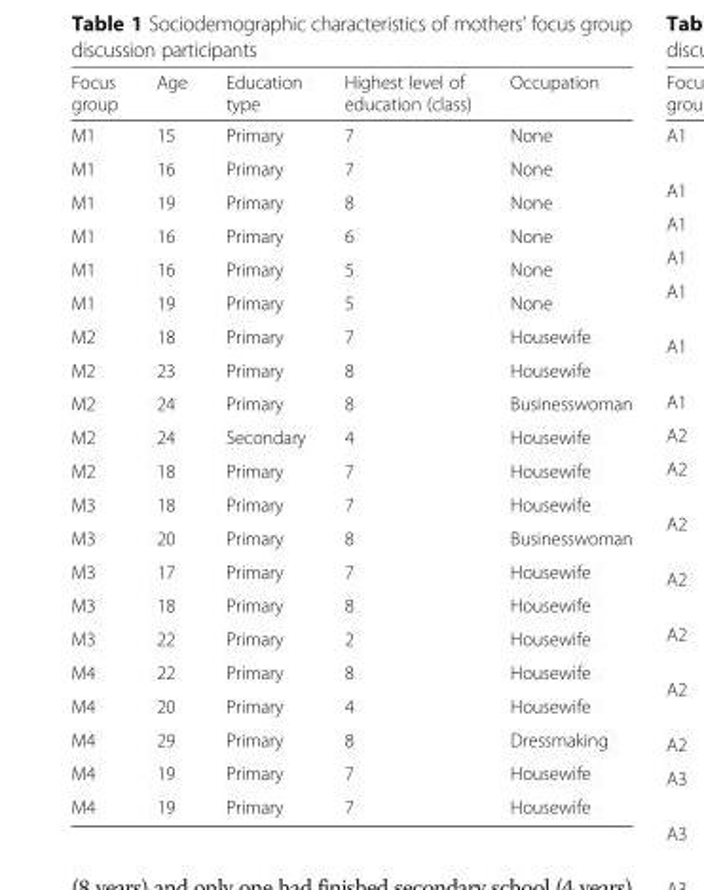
<table><thead><tr><td>Focus group</td><td>Age</td><td>Education type</td><td>Highest level of education (class)</td><td>Occupation</td></tr></thead><tbody><tr><td>M1</td><td>15</td><td>Primary</td><td>7</td><td>None</td></tr><tr><td>M1</td><td>16</td><td>Primary</td><td>7</td><td>None</td></tr><tr><td>M1</td><td>19</td><td>Primary</td><td>8</td><td>None</td></tr><tr><td>M1</td><td>16</td><td>Primary</td><td>6</td><td>None</td></tr><tr><td>M1</td><td>16</td><td>Primary</td><td>5</td><td>None</td></tr><tr><td>M1</td><td>19</td><td>Primary</td><td>5</td><td>None</td></tr><tr><td>M2</td><td>18</td><td>Primary</td><td>7</td><td>Housewife</td></tr><tr><td>M2</td><td>23</td><td>Primary</td><td>8</td><td>Housewife</td></tr><tr><td>M2</td><td>24</td><td>Primary</td><td>8</td><td>Businesswoman</td></tr><tr><td>M2</td><td>24</td><td>Secondary</td><td>4</td><td>Housewife</td></tr><tr><td>M2</td><td>18</td><td>Primary</td><td>7</td><td>Housewife</td></tr><tr><td>M3</td><td>18</td><td>Primary</td><td>7</td><td>Housewife</td></tr><tr><td>M3</td><td>20</td><td>Primary</td><td>8</td><td>Businesswoman</td></tr><tr><td>M3</td><td>17</td><td>Primary</td><td>7</td><td>Housewife</td></tr><tr><td>M3</td><td>18</td><td>Primary</td><td>8</td><td>Housewife</td></tr><tr><td>M3</td><td>22</td><td>Primary</td><td>2</td><td>Housewife</td></tr><tr><td>M4</td><td>22</td><td>Primary</td><td>8</td><td>Housewife</td></tr><tr><td>M4</td><td>20</td><td>Primary</td><td>4</td><td>Housewife</td></tr><tr><td>M4</td><td>29</td><td>Primary</td><td>8</td><td>Dressmaking</td></tr><tr><td>M4</td><td>19</td><td>Primary</td><td>7</td><td>Housewife</td></tr><tr><td>M4</td><td>19</td><td>Primary</td><td>7</td><td>Housewife</td></tr></tbody></table>